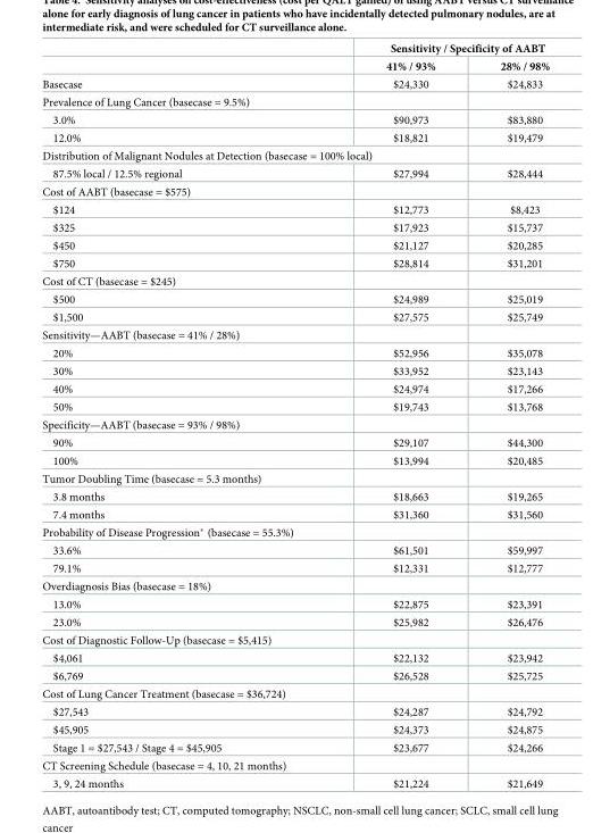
<table><thead><tr><td rowspan="2"></td><td colspan="2">Sensitivity / Specificity of AABT</td></tr><tr><td>41% / 93%</td><td>28% / 98%</td></tr></thead><tbody><tr><td>Basecase</td><td>$24,330</td><td>$24,833</td></tr><tr><td colspan="3">Prevalence of Lung Cancer (basecase = 9.5%)</td></tr><tr><td>3.0%</td><td>$90,973</td><td>$83,880</td></tr><tr><td>12.0%</td><td>$18,821</td><td>$19,479</td></tr><tr><td colspan="3">Distribution of Malignant Nodules at Detection (basecase = 100% local)</td></tr><tr><td>87.5% local / 12.5% regional</td><td>$27,994</td><td>$28,444</td></tr><tr><td colspan="3">Cost of AABT (basecase = $575)</td></tr><tr><td>$124</td><td>$12,773</td><td>$8,423</td></tr><tr><td>$325</td><td>$17,923</td><td>$15,737</td></tr><tr><td>$450</td><td>$21,127</td><td>$20,285</td></tr><tr><td>$750</td><td>$28,814</td><td>$31,201</td></tr><tr><td colspan="3">Cost of CT (basecase = $245)</td></tr><tr><td>$500</td><td>$24,989</td><td>$25,019</td></tr><tr><td>$1,500</td><td>$27,575</td><td>$25,749</td></tr><tr><td colspan="3">Sensitivity—AABT (basecase = 41% / 28%)</td></tr><tr><td>20%</td><td>$52,956</td><td>$35,078</td></tr><tr><td>30%</td><td>$33,952</td><td>$23,143</td></tr><tr><td>40%</td><td>$24,974</td><td>$17,266</td></tr><tr><td>50%</td><td>$19,743</td><td>$13,768</td></tr><tr><td colspan="3">Specificity—AABT (basecase = 93% / 98%)</td></tr><tr><td>90%</td><td>$29,107</td><td>$44,300</td></tr><tr><td>100%</td><td>$13,994</td><td>$20,485</td></tr><tr><td colspan="3">Tumor Doubling Time (basecase = 5.3 months)</td></tr><tr><td>3.8 months</td><td>$18,663</td><td>$19,265</td></tr><tr><td>7.4 months</td><td>$31,360</td><td>$31,560</td></tr><tr><td colspan="3">Probability of Disease Progression* (basecase = 55.3%)</td></tr><tr><td>33.6%</td><td>$61,501</td><td>$59,997</td></tr><tr><td>79.1%</td><td>$12,331</td><td>$12,777</td></tr><tr><td colspan="3">Overdiagnosis Bias (basecase = 18%)</td></tr><tr><td>13.0%</td><td>$22,875</td><td>$23,391</td></tr><tr><td>23.0%</td><td>$25,982</td><td>$26,476</td></tr><tr><td colspan="3">Cost of Diagnostic Follow-Up (basecase = $5,415)</td></tr><tr><td>$4,061</td><td>$22,132</td><td>$23,942</td></tr><tr><td>$6,769</td><td>$26,528</td><td>$25,725</td></tr><tr><td colspan="3">Cost of Lung Cancer Treatment (basecase = $36,724)</td></tr><tr><td>$27,543</td><td>$24,287</td><td>$24,792</td></tr><tr><td>$45,905</td><td>$24,373</td><td>$24,875</td></tr><tr><td>Stage 1 = $27,543 / Stage 4 = $45,905</td><td>$23,677</td><td>$24,266</td></tr><tr><td colspan="3">CT Screening Schedule (basecase = 4, 10, 21 months)</td></tr><tr><td>3, 9, 24 months</td><td>$21,224</td><td>$21,649</td></tr></tbody></table>